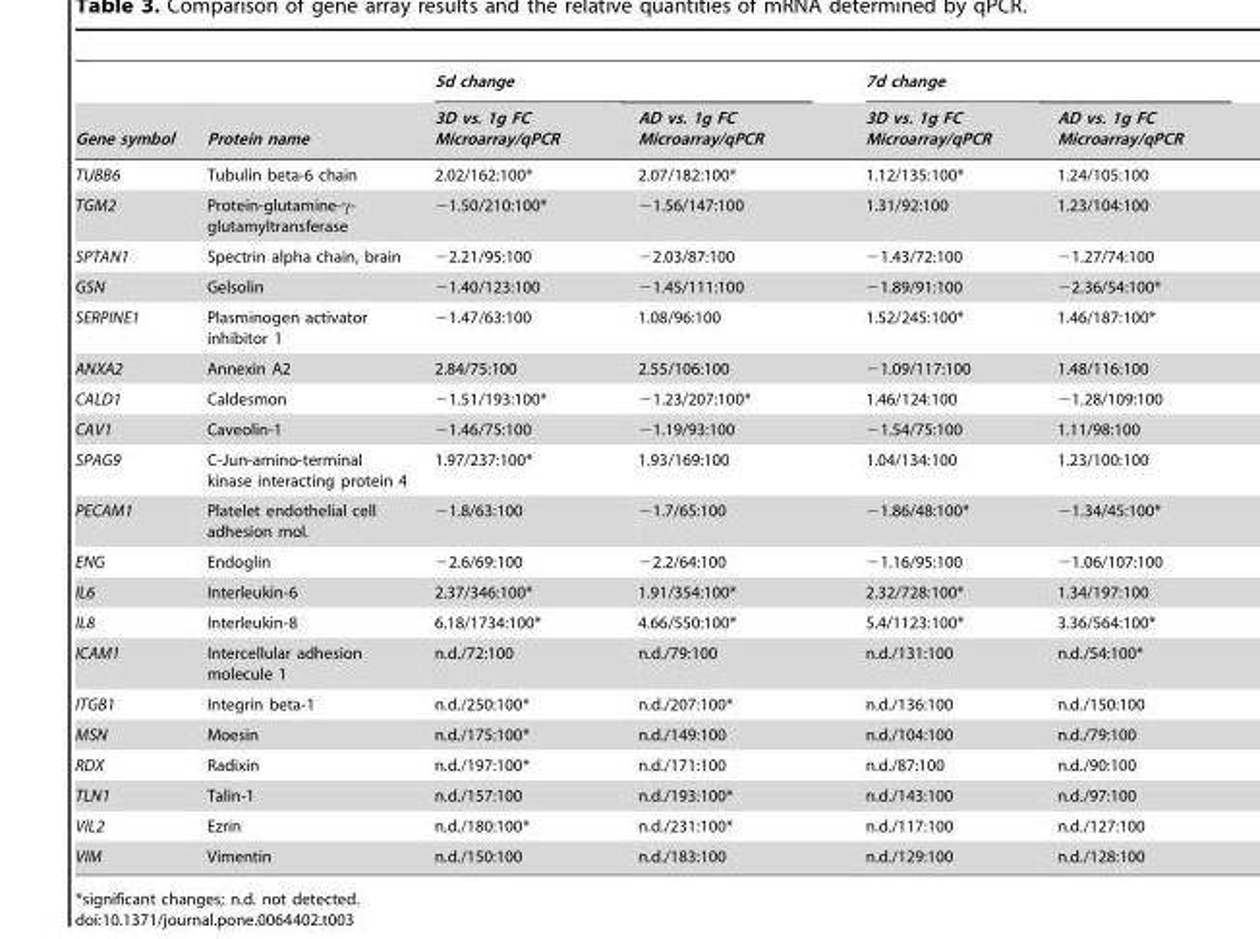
<table><thead><tr><td rowspan="2">Gene symbol</td><td rowspan="2">Protein name</td><td rowspan="2">5d change 3D vs. 1g FC Microarray/qPCR</td><td rowspan="2">AD vs. 1g FC Microarray/qPCR</td><td rowspan="2">7d change 3D vs. 1g FC Microarray/qPCR</td><td rowspan="2">AD vs. 1g FC Microarray/qPCR</td></tr><tr></tr></thead><tbody><tr><td>TUBB6</td><td>Tubulin beta-6 chain</td><td>2.02/162:100*</td><td>2.07/182:100*</td><td>1.12/135:100*</td><td>1.24/105:100</td></tr><tr><td>TGM2</td><td>Protein-glutamine-γ- glutamyltransferase</td><td>−1.50/210:100*</td><td>−1.56/147:100</td><td>1.31/92:100</td><td>1.23/104:100</td></tr><tr><td>SPTAN1</td><td>Spectrin alpha chain, brain</td><td>−2.21/95:100</td><td>−2.03/87:100</td><td>−1.43/72:100</td><td>−1.27/74:100</td></tr><tr><td>GSN</td><td>Gelsolin</td><td>−1.40/123:100</td><td>−1.45/111:100</td><td>−1.89/91:100</td><td>−2.36/54:100*</td></tr><tr><td>SERPINE1</td><td>Plasminogen activator inhibitor 1</td><td>−1.47/63:100</td><td>1.08/96:100</td><td>1.52/245:100*</td><td>1.46/187:100*</td></tr><tr><td>ANXA2</td><td>Annexin A2</td><td>2.84/75:100</td><td>2.55/106:100</td><td>−1.09/117:100</td><td>1.48/116:100</td></tr><tr><td>CALD1</td><td>Caldesmon</td><td>−1.51/193:100*</td><td>−1.23/207:100*</td><td>1.46/124:100</td><td>−1.28/109:100</td></tr><tr><td>CAV1</td><td>Caveolin-1</td><td>−1.46/75:100</td><td>−1.19/93:100</td><td>−1.54/75:100</td><td>1.11/98:100</td></tr><tr><td>SPAG9</td><td>C-Jun-amino-terminal kinase interacting protein 4</td><td>1.97/237:100*</td><td>1.93/169:100</td><td>1.04/134:100</td><td>1.23/100:100</td></tr><tr><td>PECAM1</td><td>Platelet endothelial cell adhesion mol.</td><td>−1.8/63:100</td><td>−1.7/65:100</td><td>−1.86/48:100*</td><td>−1.34/45:100*</td></tr><tr><td>ENG</td><td>Endoglin</td><td>−2.6/69:100</td><td>−2.2/64:100</td><td>−1.16/95:100</td><td>−1.06/107:100</td></tr><tr><td>IL6</td><td>Interleukin-6</td><td>2.37/346:100*</td><td>1.91/354:100*</td><td>2.32/728:100*</td><td>1.34/197:100</td></tr><tr><td>IL8</td><td>Interleukin-8</td><td>6.18/1734:100*</td><td>4.66/550:100*</td><td>5.4/1123:100*</td><td>3.36/564:100*</td></tr><tr><td>ICAM1</td><td>Intercellular adhesion molecule 1</td><td>n.d./72:100</td><td>n.d./79:100</td><td>n.d./131:100</td><td>n.d./54:100*</td></tr><tr><td>ITGB1</td><td>Integrin beta-1</td><td>n.d./250:100*</td><td>n.d./207:100*</td><td>n.d./136:100</td><td>n.d./150:100</td></tr><tr><td>MSN</td><td>Moesin</td><td>n.d./175:100*</td><td>n.d./149:100</td><td>n.d./104:100</td><td>n.d./79:100</td></tr><tr><td>RDX</td><td>Radixin</td><td>n.d./197:100*</td><td>n.d./171:100</td><td>n.d./87:100</td><td>n.d./90:100</td></tr><tr><td>TLN1</td><td>Talin-1</td><td>n.d./157:100</td><td>n.d./193:100*</td><td>n.d./143:100</td><td>n.d./97:100</td></tr><tr><td>VIL2</td><td>Ezrin</td><td>n.d./180:100*</td><td>n.d./231:100*</td><td>n.d./117:100</td><td>n.d./127:100</td></tr><tr><td>VIM</td><td>Vimentin</td><td>n.d./150:100</td><td>n.d./183:100</td><td>n.d./129:100</td><td>n.d./128:100</td></tr></tbody></table>